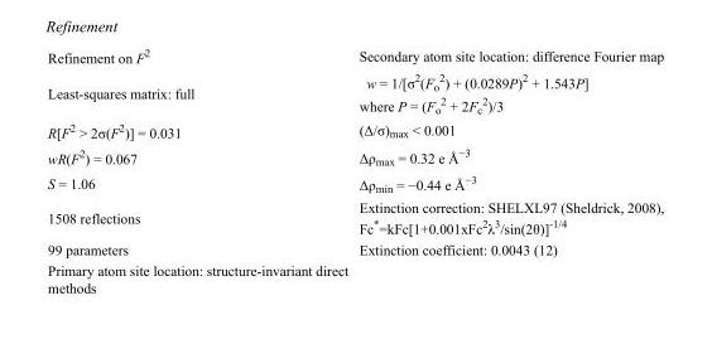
<table><tbody><tr><td>Refinement on F<sup>2</sup></td><td>Secondary atom site location: difference Fourier map</td></tr><tr><td>Least-squares matrix: full</td><td>w = 1/[σ<sup>2</sup>(F<sub>o</sub> <sup>2</sup>) + (0.0289P)<sup>2</sup> + 1.543P] where P = (F<sub>o</sub> <sup>2</sup> + 2F<sub>c</sub> <sup>2</sup>)/3</td></tr><tr><td>R[F<sup>2</sup> &gt; 2σ(F<sup>2</sup>)] = 0.031</td><td>(Δ/σ)<sub>max</sub> &lt; 0.001</td></tr><tr><td>wR(F<sup>2</sup>) = 0.067</td><td>Δρ<sub>max</sub> = 0.32 e Å<sup>−3</sup></td></tr><tr><td>S = 1.06</td><td>Δρ<sub>min</sub> = −0.44 e Å<sup>−3</sup></td></tr><tr><td>1508 reflections</td><td>Extinction correction: SHELXL97 (Sheldrick, 2008), Fc*=kFc[1+0.001xFc<sup>2</sup>λ<sup>3</sup>/sin(2θ)]<sup>-1/4</sup></td></tr><tr><td>99 parameters</td><td>Extinction coefficient: 0.0043 (12)</td></tr><tr><td>Primary atom site location: structure-invariant direct methods</td><td></td></tr></tbody></table>